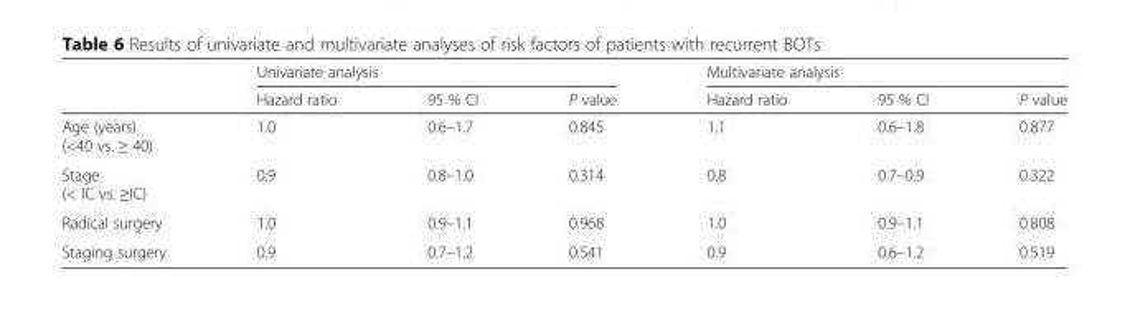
<table><thead><tr><td rowspan="2"></td><td colspan="3">Univariate analysis</td><td colspan="3">Multivariate analysis</td></tr><tr><td>Hazard ratio</td><td>95 % CI</td><td>P value</td><td>Hazard ratio</td><td>95 % CI</td><td>P value</td></tr></thead><tbody><tr><td>Age (years) (&lt;40 vs. ≥ 40)</td><td>1.0</td><td>0.6–1.7</td><td>0.845</td><td>1.1</td><td>0.6–1.8</td><td>0.877</td></tr><tr><td>Stage (&lt; IC vs. ≥IC)</td><td>0.9</td><td>0.8–1.0</td><td>0.314</td><td>0.8</td><td>0.7–0.9</td><td>0.322</td></tr><tr><td>Radical surgery</td><td>1.0</td><td>0.9–1.1</td><td>0.968</td><td>1.0</td><td>0.9–1.1</td><td>0.808</td></tr><tr><td>Staging surgery</td><td>0.9</td><td>0.7–1.2</td><td>0.541</td><td>0.9</td><td>0.6–1.2</td><td>0.519</td></tr></tbody></table>